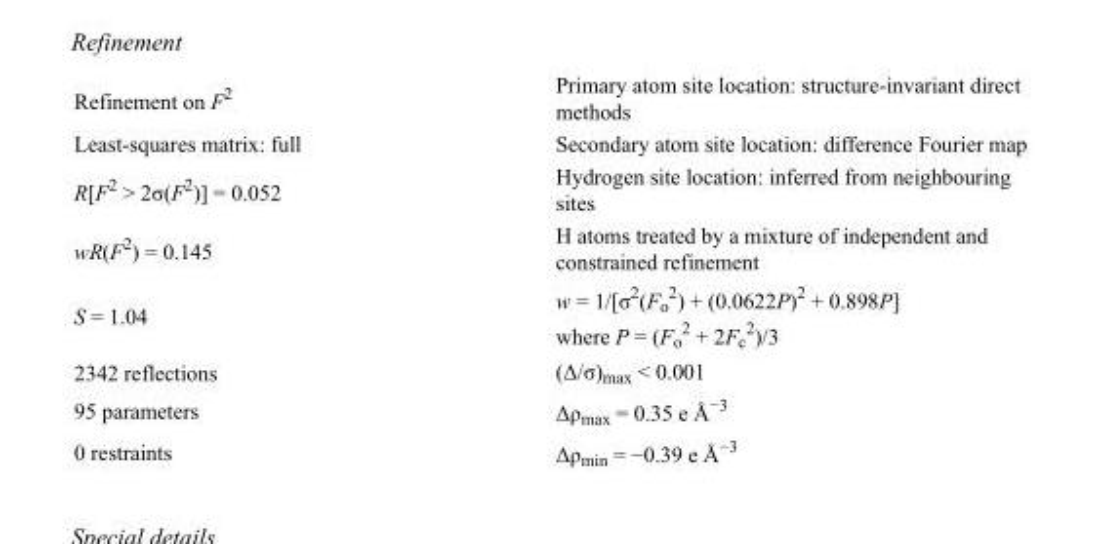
<table><tbody><tr><td>Refinement on F<sup>2</sup></td><td>Primary atom site location: structure-invariant direct methods</td></tr><tr><td>Least-squares matrix: full</td><td>Secondary atom site location: difference Fourier map</td></tr><tr><td>R[F<sup>2</sup> &gt; 2σ(F<sup>2</sup>)] = 0.052</td><td>Hydrogen site location: inferred from neighbouring sites</td></tr><tr><td>wR(F<sup>2</sup>) = 0.145</td><td>H atoms treated by a mixture of independent and constrained refinement</td></tr><tr><td>S = 1.04</td><td>w = 1/[σ<sup>2</sup>(F<sub>o</sub> <sup>2</sup>) + (0.0622P)<sup>2</sup> + 0.898P] where P = (F<sub>o</sub> <sup>2</sup> + 2F<sub>c</sub> <sup>2</sup>)/3</td></tr><tr><td>2342 reflections</td><td>(Δ/σ)<sub>max</sub> &lt; 0.001</td></tr><tr><td>95 parameters</td><td>Δρ<sub>max</sub> = 0.35 e Å<sup>−3</sup></td></tr><tr><td>0 restraints</td><td>Δρ<sub>min</sub> = −0.39 e Å<sup>−3</sup></td></tr></tbody></table>